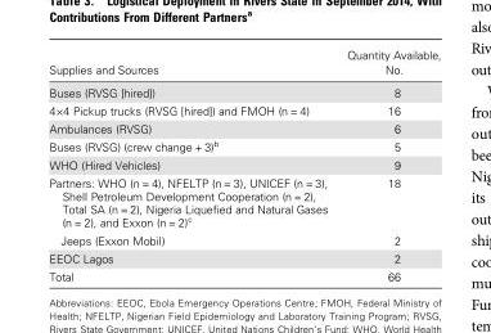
<table><thead><tr><td>Supplies and Sources</td><td>Quantity Available, No.</td></tr></thead><tbody><tr><td>Buses (RVSG [hired])</td><td>8</td></tr><tr><td>4×4 Pickup trucks (RVSG [hired]) and FMOH (n = 4)</td><td>16</td></tr><tr><td>Ambulances (RVSG)</td><td>6</td></tr><tr><td>Buses (RVSG) (crew change + 3)<sup>b</sup></td><td>5</td></tr><tr><td>WHO (Hired Vehicles)</td><td>9</td></tr><tr><td>Partners: WHO (n = 4), NFELTP (n = 3), UNICEF (n = 3), Shell Petroleum Development Cooperation (n = 2), Total SA (n = 2), Nigeria Liquefied and Natural Gases (n = 2), and Exxon (n = 2)<sup>c</sup></td><td>18</td></tr><tr><td>Jeeps (Exxon Mobil)</td><td>2</td></tr><tr><td>EEOC Lagos</td><td>2</td></tr><tr><td>Total</td><td>66</td></tr></tbody></table>